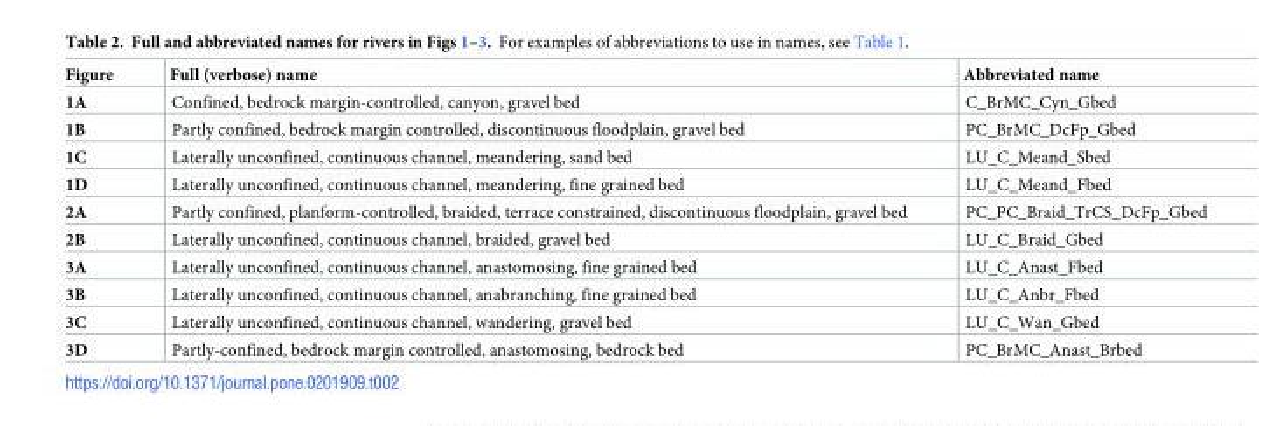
<table><thead><tr><td>Figure</td><td>Full (verbose) name</td><td>Abbreviated name</td></tr></thead><tbody><tr><td>1A</td><td>Confined, bedrock margin-controlled, canyon, gravel bed</td><td>C_BrMC_Cyn_Gbed</td></tr><tr><td>1B</td><td>Partly confined, bedrock margin controlled, discontinuous floodplain, gravel bed</td><td>PC_BrMC_DcFp_Gbed</td></tr><tr><td>1C</td><td>Laterally unconfined, continuous channel, meandering, sand bed</td><td>LU_C_Meand_Sbed</td></tr><tr><td>1D</td><td>Laterally unconfined, continuous channel, meandering, fine grained bed</td><td>LU_C_Meand_Fbed</td></tr><tr><td>2A</td><td>Partly confined, planform-controlled, braided, terrace constrained, discontinuous floodplain, gravel bed</td><td>PC_PC_Braid_TrCS_DcFp_Gbed</td></tr><tr><td>2B</td><td>Laterally unconfined, continuous channel, braided, gravel bed</td><td>LU_C_Braid_Gbed</td></tr><tr><td>3A</td><td>Laterally unconfined, continuous channel, anastomosing, fine grained bed</td><td>LU_C_Anast_Fbed</td></tr><tr><td>3B</td><td>Laterally unconfined, continuous channel, anabranching, fine grained bed</td><td>LU_C_Anbr_Fbed</td></tr><tr><td>3C</td><td>Laterally unconfined, continuous channel, wandering, gravel bed</td><td>LU_C_Wan_Gbed</td></tr><tr><td>3D</td><td>Partly-confined, bedrock margin controlled, anastomosing, bedrock bed</td><td>PC_BrMC_Anast_Brbed</td></tr></tbody></table>